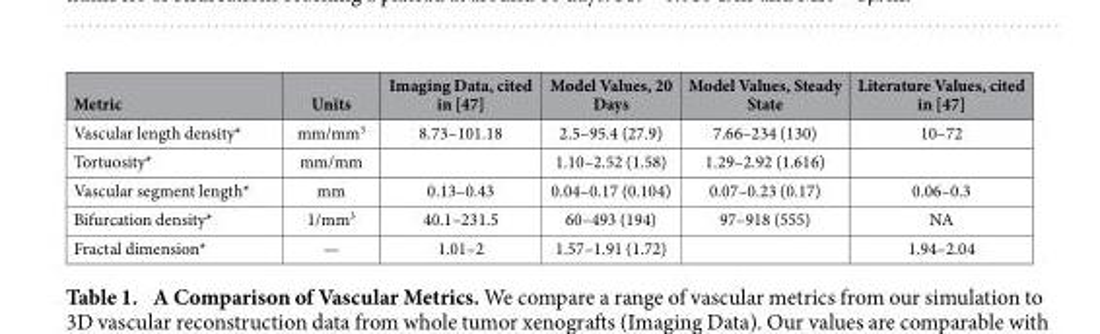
<table><thead><tr><td>Metric</td><td>Units</td><td>Imaging Data, cited in [47]</td><td>Model Values, 20 Days</td><td>Model Values, Steady State</td><td>Literature Values, cited in [47]</td></tr></thead><tbody><tr><td>Vascular length density*</td><td>mm/mm<sup>3</sup></td><td>8.73–101.18</td><td>2.5–95.4 (27.9)</td><td>7.66–234 (130)</td><td>10–72</td></tr><tr><td>Tortuosity*</td><td>mm/mm</td><td></td><td>1.10–2.52 (1.58)</td><td>1.29–2.92 (1.616)</td><td></td></tr><tr><td>Vascular segment length*</td><td>mm</td><td>0.13–0.43</td><td>0.04–0.17 (0.104)</td><td>0.07–0.23 (0.17)</td><td>0.06–0.3</td></tr><tr><td>Bifurcation density*</td><td>1/mm<sup>3</sup></td><td>40.1–231.5</td><td>60–493 (194)</td><td>97–918 (555)</td><td>NA</td></tr><tr><td>Fractal dimension*</td><td>—</td><td>1.01–2</td><td>1.57–1.91 (1.72)</td><td></td><td>1.94–2.04</td></tr></tbody></table>